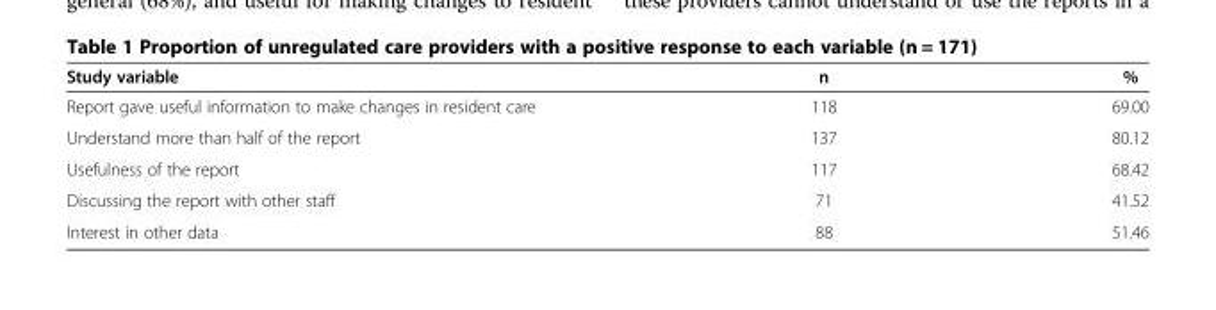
<table><thead><tr><td>Study variable</td><td>n</td><td>%</td></tr></thead><tbody><tr><td>Report gave useful information to make changes in resident care</td><td>118</td><td>69.00</td></tr><tr><td>Understand more than half of the report</td><td>137</td><td>80.12</td></tr><tr><td>Usefulness of the report</td><td>117</td><td>68.42</td></tr><tr><td>Discussing the report with other staff</td><td>71</td><td>41.52</td></tr><tr><td>Interest in other data</td><td>88</td><td>51.46</td></tr></tbody></table>